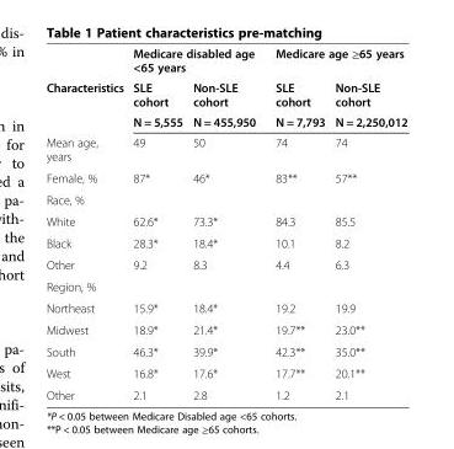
<table><thead><tr><td rowspan="3">Characteristics</td><td colspan="2">Medicare disabled age &lt;65 years</td><td colspan="2">Medicare age ≥65 years</td></tr><tr><td rowspan="2">SLE cohort N = 5,555</td><td rowspan="2">Non-SLE cohort N = 455,950</td><td rowspan="2">SLE cohort N = 7,793</td><td rowspan="2">Non-SLE cohort N = 2,250,012</td></tr><tr></tr></thead><tbody><tr><td>Mean age, years</td><td>49</td><td>50</td><td>74</td><td>74</td></tr><tr><td>Female, %</td><td>87*</td><td>46*</td><td>83**</td><td>57**</td></tr><tr><td colspan="5">Race, %</td></tr><tr><td>White</td><td>62.6*</td><td>73.3*</td><td>84.3</td><td>85.5</td></tr><tr><td>Black</td><td>28.3*</td><td>18.4*</td><td>10.1</td><td>8.2</td></tr><tr><td>Other</td><td>9.2</td><td>8.3</td><td>4.4</td><td>6.3</td></tr><tr><td colspan="5">Region, %</td></tr><tr><td>Northeast</td><td>15.9*</td><td>18.4*</td><td>19.2</td><td>19.9</td></tr><tr><td>Midwest</td><td>18.9*</td><td>21.4*</td><td>19.7**</td><td>23.0**</td></tr><tr><td>South</td><td>46.3*</td><td>39.9*</td><td>42.3**</td><td>35.0**</td></tr><tr><td>West</td><td>16.8*</td><td>17.6*</td><td>17.7**</td><td>20.1**</td></tr><tr><td>Other</td><td>2.1</td><td>2.8</td><td>1.2</td><td>2.1</td></tr></tbody></table>